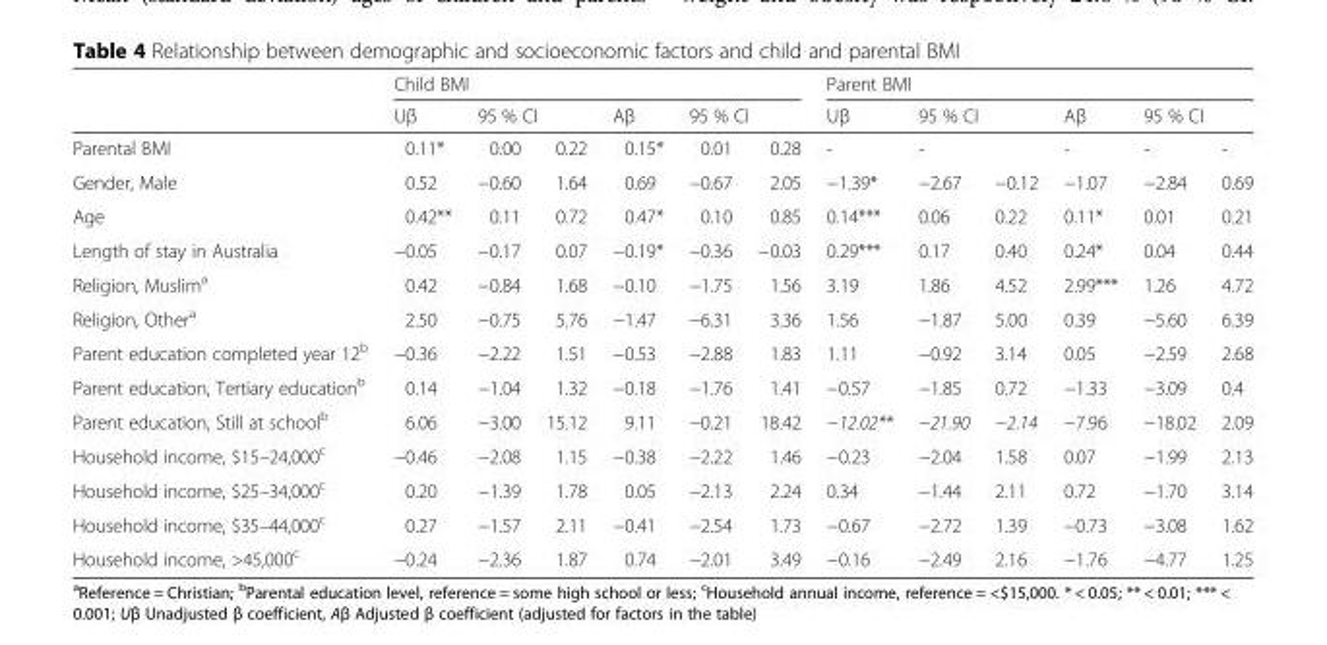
<table><thead><tr><td rowspan="3">Parental BMI</td><td colspan="6">Child BMI</td><td colspan="6">Parent BMI</td></tr><tr><td rowspan="2">Uβ 0.11*</td><td colspan="2">95 % CI</td><td rowspan="2">Aβ 0.15*</td><td colspan="2">95 % CI</td><td rowspan="2">Uβ -</td><td colspan="2">95 % CI</td><td rowspan="2">Aβ -</td><td colspan="2">95 % CI</td></tr><tr><td>0.00</td><td>0.22</td><td>0.01</td><td>0.28</td><td>-</td><td></td><td>-</td><td>-</td></tr></thead><tbody><tr><td>Gender, Male</td><td>0.52</td><td>−0.60</td><td>1.64</td><td>0.69</td><td>−0.67</td><td>2.05</td><td>−1.39*</td><td>−2.67</td><td>−0.12</td><td>−1.07</td><td>−2.84</td><td>0.69</td></tr><tr><td>Age</td><td>0.42**</td><td>0.11</td><td>0.72</td><td>0.47*</td><td>0.10</td><td>0.85</td><td>0.14***</td><td>0.06</td><td>0.22</td><td>0.11*</td><td>0.01</td><td>0.21</td></tr><tr><td>Length of stay in Australia</td><td>−0.05</td><td>−0.17</td><td>0.07</td><td>−0.19*</td><td>−0.36</td><td>−0.03</td><td>0.29***</td><td>0.17</td><td>0.40</td><td>0.24*</td><td>0.04</td><td>0.44</td></tr><tr><td>Religion, Muslim<sup>a</sup></td><td>0.42</td><td>−0.84</td><td>1.68</td><td>−0.10</td><td>−1.75</td><td>1.56</td><td>3.19</td><td>1.86</td><td>4.52</td><td>2.99***</td><td>1.26</td><td>4.72</td></tr><tr><td>Religion, Other<sup>a</sup></td><td>2.50</td><td>−0.75</td><td>5.76</td><td>−1.47</td><td>−6.31</td><td>3.36</td><td>1.56</td><td>−1.87</td><td>5.00</td><td>0.39</td><td>−5.60</td><td>6.39</td></tr><tr><td>Parent education completed year 12<sup>b</sup></td><td>−0.36</td><td>−2.22</td><td>1.51</td><td>−0.53</td><td>−2.88</td><td>1.83</td><td>1.11</td><td>−0.92</td><td>3.14</td><td>0.05</td><td>−2.59</td><td>2.68</td></tr><tr><td>Parent education, Tertiary education<sup>b</sup></td><td>0.14</td><td>−1.04</td><td>1.32</td><td>−0.18</td><td>−1.76</td><td>1.41</td><td>−0.57</td><td>−1.85</td><td>0.72</td><td>−1.33</td><td>−3.09</td><td>0.4</td></tr><tr><td>Parent education, Still at school<sup>b</sup></td><td>6.06</td><td>−3.00</td><td>15.12</td><td>9.11</td><td>−0.21</td><td>18.42</td><td>−12.02**</td><td>−21.90</td><td>−2.14</td><td>−7.96</td><td>−18.02</td><td>2.09</td></tr><tr><td>Household income, $15–24,000<sup>c</sup></td><td>−0.46</td><td>−2.08</td><td>1.15</td><td>−0.38</td><td>−2.22</td><td>1.46</td><td>−0.23</td><td>−2.04</td><td>1.58</td><td>0.07</td><td>−1.99</td><td>2.13</td></tr><tr><td>Household income, $25–34,000<sup>c</sup></td><td>0.20</td><td>−1.39</td><td>1.78</td><td>0.05</td><td>−2.13</td><td>2.24</td><td>0.34</td><td>−1.44</td><td>2.11</td><td>0.72</td><td>−1.70</td><td>3.14</td></tr><tr><td>Household income, $35–44,000<sup>c</sup></td><td>0.27</td><td>−1.57</td><td>2.11</td><td>−0.41</td><td>−2.54</td><td>1.73</td><td>−0.67</td><td>−2.72</td><td>1.39</td><td>−0.73</td><td>−3.08</td><td>1.62</td></tr><tr><td>Household income, &gt;45,000<sup>c</sup></td><td>−0.24</td><td>−2.36</td><td>1.87</td><td>0.74</td><td>−2.01</td><td>3.49</td><td>−0.16</td><td>−2.49</td><td>2.16</td><td>−1.76</td><td>−4.77</td><td>1.25</td></tr></tbody></table>